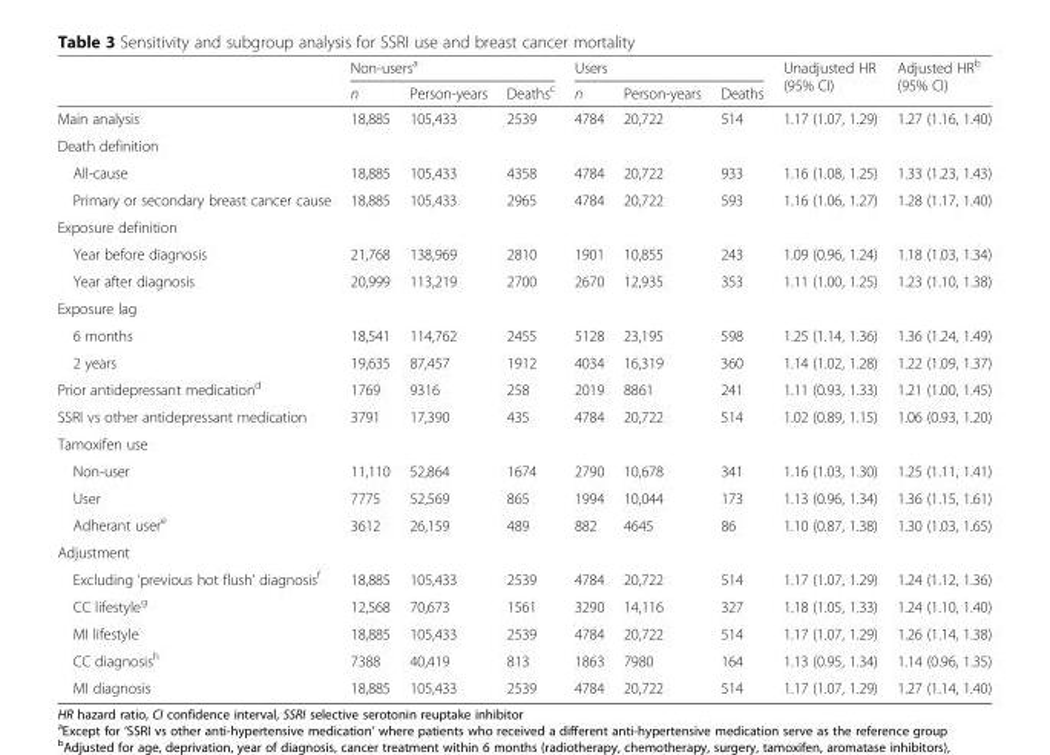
<table><thead><tr><td rowspan="2"></td><td colspan="3">Non-users<sup>a</sup></td><td colspan="3">Users</td><td rowspan="2">Unadjusted HR (95% CI)</td><td rowspan="2">Adjusted HR<sup>b</sup> (95% CI)</td></tr><tr><td>n</td><td>Person-years</td><td>Deaths<sup>c</sup></td><td>n</td><td>Person-years</td><td>Deaths</td></tr></thead><tbody><tr><td>Main analysis</td><td>18,885</td><td>105,433</td><td>2539</td><td>4784</td><td>20,722</td><td>514</td><td>1.17 (1.07, 1.29)</td><td>1.27 (1.16, 1.40)</td></tr><tr><td colspan="9">Death definition</td></tr><tr><td>All-cause</td><td>18,885</td><td>105,433</td><td>4358</td><td>4784</td><td>20,722</td><td>933</td><td>1.16 (1.08, 1.25)</td><td>1.33 (1.23, 1.43)</td></tr><tr><td>Primary or secondary breast cancer cause</td><td>18,885</td><td>105,433</td><td>2965</td><td>4784</td><td>20,722</td><td>593</td><td>1.16 (1.06, 1.27)</td><td>1.28 (1.17, 1.40)</td></tr><tr><td colspan="9">Exposure definition</td></tr><tr><td>Year before diagnosis</td><td>21,768</td><td>138,969</td><td>2810</td><td>1901</td><td>10,855</td><td>243</td><td>1.09 (0.96, 1.24)</td><td>1.18 (1.03, 1.34)</td></tr><tr><td>Year after diagnosis</td><td>20,999</td><td>113,219</td><td>2700</td><td>2670</td><td>12,935</td><td>353</td><td>1.11 (1.00, 1.25)</td><td>1.23 (1.10, 1.38)</td></tr><tr><td colspan="9">Exposure lag</td></tr><tr><td>6 months</td><td>18,541</td><td>114,762</td><td>2455</td><td>5128</td><td>23,195</td><td>598</td><td>1.25 (1.14, 1.36)</td><td>1.36 (1.24, 1.49)</td></tr><tr><td>2 years</td><td>19,635</td><td>87,457</td><td>1912</td><td>4034</td><td>16,319</td><td>360</td><td>1.14 (1.02, 1.28)</td><td>1.22 (1.09, 1.37)</td></tr><tr><td>Prior antidepressant medication<sup>d</sup></td><td>1769</td><td>9316</td><td>258</td><td>2019</td><td>8861</td><td>241</td><td>1.11 (0.93, 1.33)</td><td>1.21 (1.00, 1.45)</td></tr><tr><td>SSRI vs other antidepressant medication</td><td>3791</td><td>17,390</td><td>435</td><td>4784</td><td>20,722</td><td>514</td><td>1.02 (0.89, 1.15)</td><td>1.06 (0.93, 1.20)</td></tr><tr><td colspan="9">Tamoxifen use</td></tr><tr><td>Non-user</td><td>11,110</td><td>52,864</td><td>1674</td><td>2790</td><td>10,678</td><td>341</td><td>1.16 (1.03, 1.30)</td><td>1.25 (1.11, 1.41)</td></tr><tr><td>User</td><td>7775</td><td>52,569</td><td>865</td><td>1994</td><td>10,044</td><td>173</td><td>1.13 (0.96, 1.34)</td><td>1.36 (1.15, 1.61)</td></tr><tr><td>Adherant user<sup>e</sup></td><td>3612</td><td>26,159</td><td>489</td><td>882</td><td>4645</td><td>86</td><td>1.10 (0.87, 1.38)</td><td>1.30 (1.03, 1.65)</td></tr><tr><td colspan="9">Adjustment</td></tr><tr><td>Excluding ‘previous hot flush’ diagnosis<sup>f</sup></td><td>18,885</td><td>105,433</td><td>2539</td><td>4784</td><td>20,722</td><td>514</td><td>1.17 (1.07, 1.29)</td><td>1.24 (1.12, 1.36)</td></tr><tr><td>CC lifestyle<sup>g</sup></td><td>12,568</td><td>70,673</td><td>1561</td><td>3290</td><td>14,116</td><td>327</td><td>1.18 (1.05, 1.33)</td><td>1.24 (1.10, 1.40)</td></tr><tr><td>MI lifestyle</td><td>18,885</td><td>105,433</td><td>2539</td><td>4784</td><td>20,722</td><td>514</td><td>1.17 (1.07, 1.29)</td><td>1.26 (1.14, 1.38)</td></tr><tr><td>CC diagnosis<sup>h</sup></td><td>7388</td><td>40,419</td><td>813</td><td>1863</td><td>7980</td><td>164</td><td>1.13 (0.95, 1.34)</td><td>1.14 (0.96, 1.35)</td></tr><tr><td>MI diagnosis</td><td>18,885</td><td>105,433</td><td>2539</td><td>4784</td><td>20,722</td><td>514</td><td>1.17 (1.07, 1.29)</td><td>1.27 (1.14, 1.40)</td></tr></tbody></table>